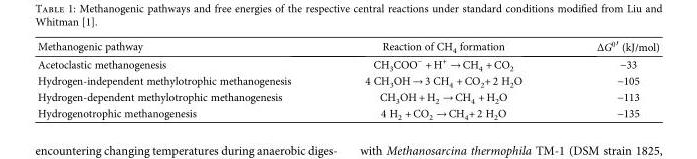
<table><thead><tr><td>Methanogenic pathway</td><td>Reaction of CH<sub>4</sub> formation</td><td>ΔG0′ (kJ/mol)</td></tr></thead><tbody><tr><td>Acetoclastic methanogenesis</td><td>CH<sub>3</sub>COO<sup>−</sup> + H<sup>+</sup> → CH<sub>4</sub> + CO<sub>2</sub></td><td>−33</td></tr><tr><td>Hydrogen-independent methylotrophic methanogenesis</td><td>4 CH<sub>3</sub>OH → 3 CH<sub>4</sub> + CO<sub>2</sub>+ 2 H<sub>2</sub>O</td><td>−105</td></tr><tr><td>Hydrogen-dependent methylotrophic methanogenesis</td><td>CH<sub>3</sub>OH + H<sub>2</sub> → CH<sub>4</sub> + H<sub>2</sub>O</td><td>−113</td></tr><tr><td>Hydrogenotrophic methanogenesis</td><td>4 H<sub>2</sub> + CO<sub>2</sub> → CH<sub>4</sub>+ 2 H<sub>2</sub>O</td><td>−135</td></tr></tbody></table>